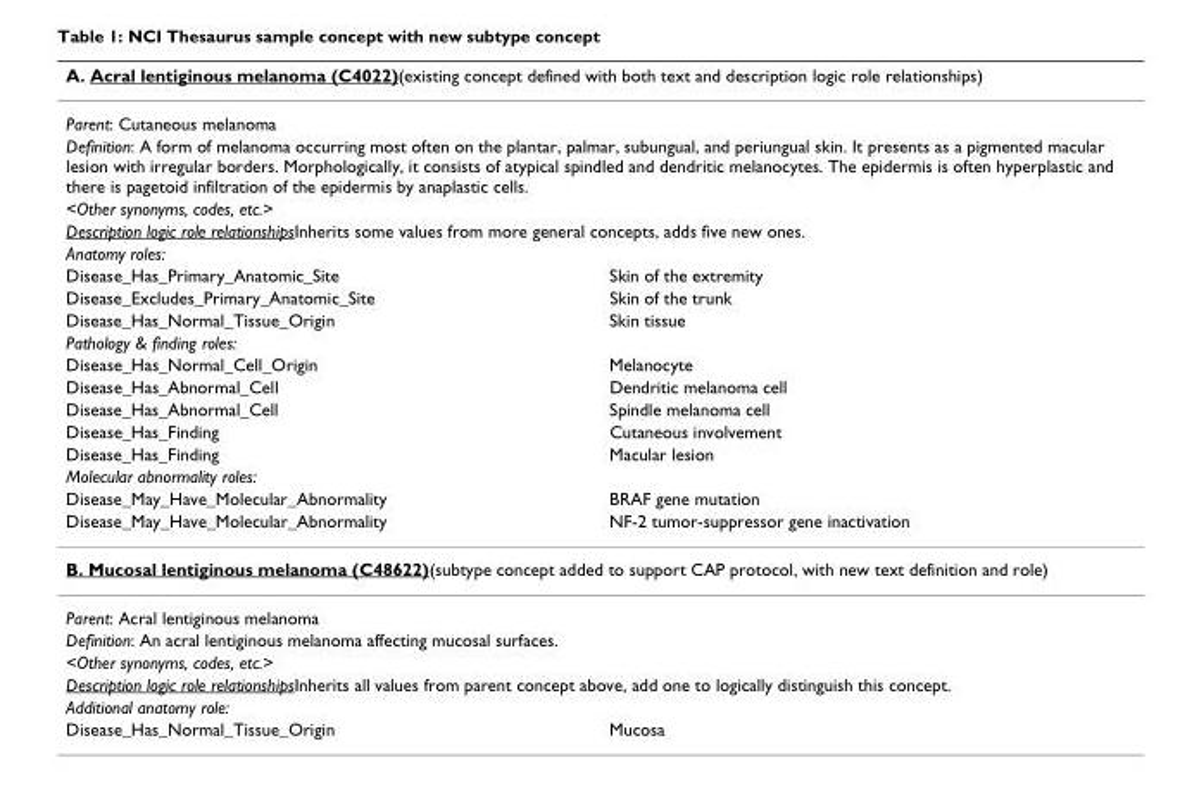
<table><thead><tr><td colspan="2">A. Acral lentiginous melanoma (C4022)(existing concept defined with both text and description logic role relationships)</td></tr></thead><tbody><tr><td colspan="2">Parent: Cutaneous melanoma</td></tr><tr><td colspan="2">Definition: A form of melanoma occurring most often on the plantar, palmar, subungual, and periungual skin. It presents as a pigmented macular lesion with irregular borders. Morphologically, it consists of atypical spindled and dendritic melanocytes. The epidermis is often hyperplastic and there is pagetoid infiltration of the epidermis by anaplastic cells.</td></tr><tr><td colspan="2">&lt;Other synonyms, codes, etc.&gt;</td></tr><tr><td colspan="2">Description logic role relationshipsInherits some values from more general concepts, adds five new ones.</td></tr><tr><td colspan="2">Anatomy roles:</td></tr><tr><td>Disease_Has_Primary_Anatomic_Site</td><td>Skin of the extremity</td></tr><tr><td>Disease_Excludes_Primary_Anatomic_Site</td><td>Skin of the trunk</td></tr><tr><td>Disease_Has_Normal_Tissue_Origin</td><td>Skin tissue</td></tr><tr><td colspan="2">Pathology &amp; finding roles:</td></tr><tr><td>Disease_Has_Normal_Cell_Origin</td><td>Melanocyte</td></tr><tr><td>Disease_Has_Abnormal_Cell</td><td>Dendritic melanoma cell</td></tr><tr><td>Disease_Has_Abnormal_Cell</td><td>Spindle melanoma cell</td></tr><tr><td>Disease_Has_Finding</td><td>Cutaneous involvement</td></tr><tr><td>Disease_Has_Finding</td><td>Macular lesion</td></tr><tr><td colspan="2">Molecular abnormality roles:</td></tr><tr><td>Disease_May_Have_Molecular_Abnormality</td><td>BRAF gene mutation</td></tr><tr><td>Disease_May_Have_Molecular_Abnormality</td><td>NF-2 tumor-suppressor gene inactivation</td></tr><tr><td colspan="2">B. Mucosal lentiginous melanoma (C48622)(subtype concept added to support CAP protocol, with new text definition and role)</td></tr><tr><td colspan="2">Parent: Acral lentiginous melanoma</td></tr><tr><td colspan="2">Definition: An acral lentiginous melanoma affecting mucosal surfaces.</td></tr><tr><td colspan="2">&lt;Other synonyms, codes, etc.&gt;</td></tr><tr><td colspan="2">Description logic role relationshipsInherits all values from parent concept above, add one to logically distinguish this concept.</td></tr><tr><td colspan="2">Additional anatomy role:</td></tr><tr><td>Disease_Has_Normal_Tissue_Origin</td><td>Mucosa</td></tr></tbody></table>